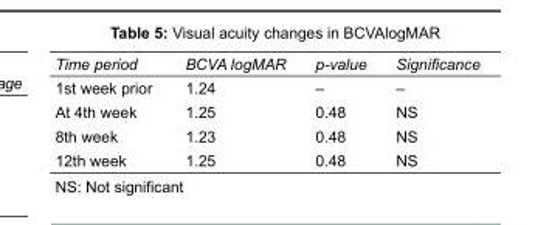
<table><tbody><tr><td>Time period</td><td>BCVA logMAR</td><td>p-value</td><td>Significance</td></tr><tr><td>1st week prior</td><td>1.24</td><td>–</td><td>–</td></tr><tr><td>At 4th week</td><td>1.25</td><td>0.48</td><td>NS</td></tr><tr><td>8th week</td><td>1.23</td><td>0.48</td><td>NS</td></tr><tr><td>12th week</td><td>1.25</td><td>0.48</td><td>NS</td></tr></tbody></table>